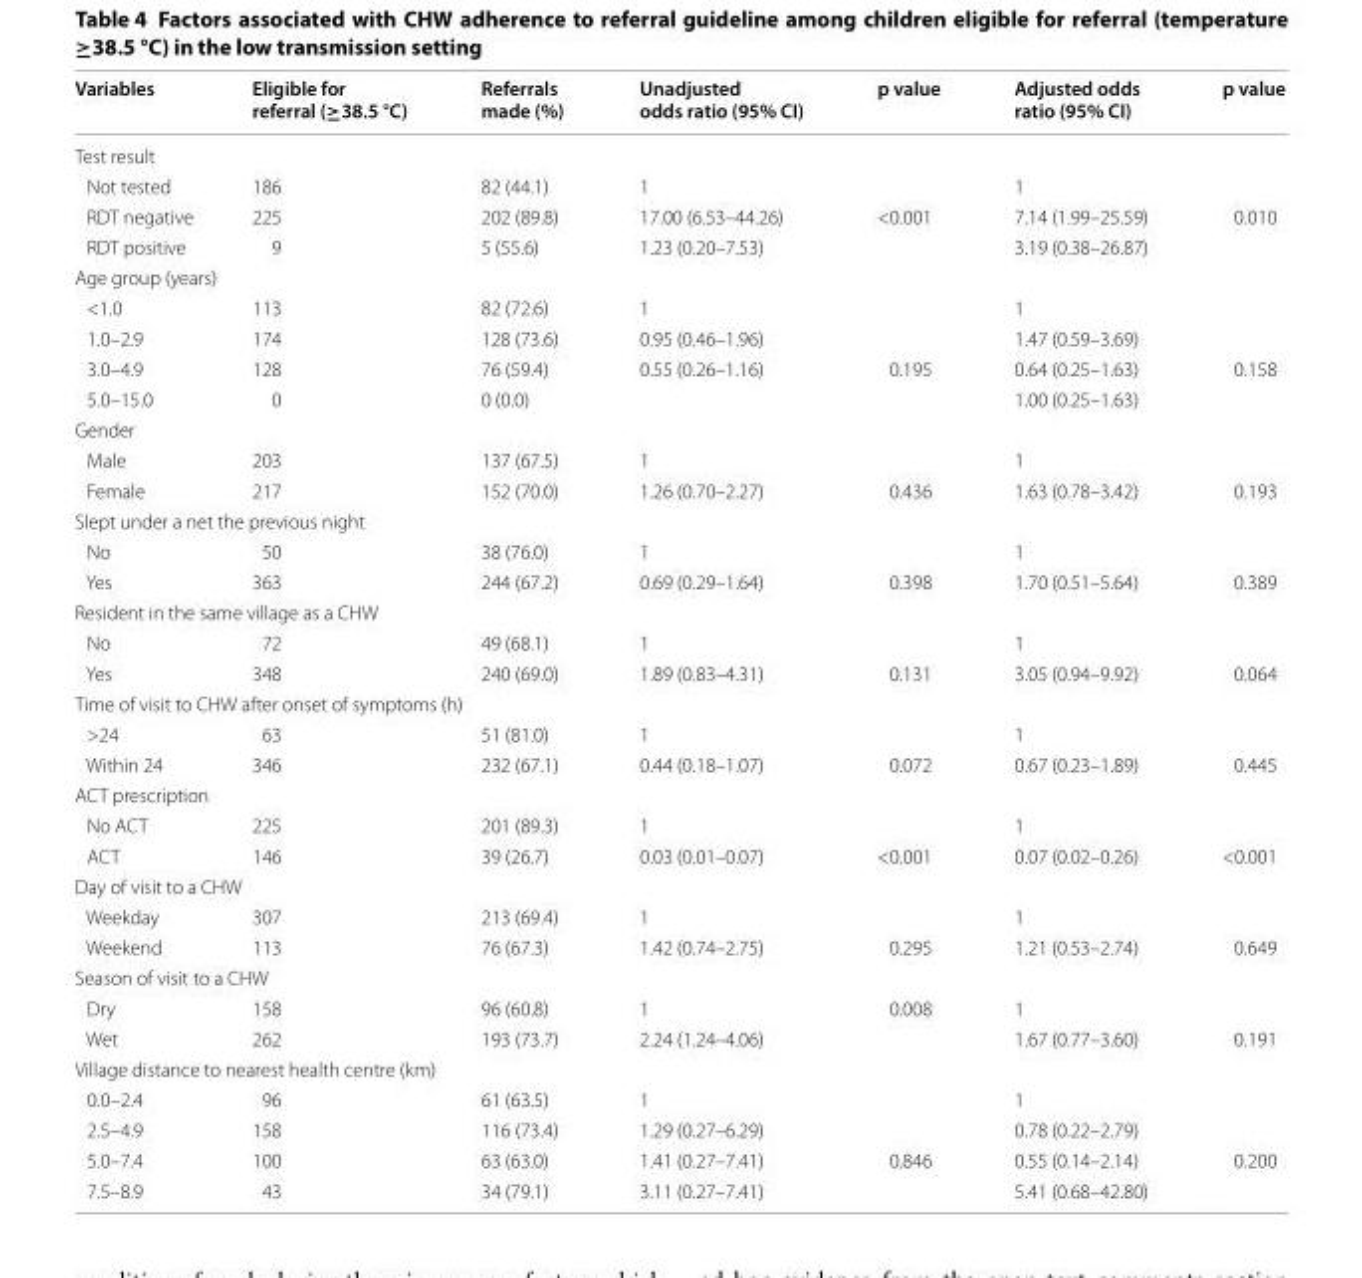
<table><thead><tr><td>Variables</td><td>Eligible for referral (≥38.5 °C)</td><td>Referrals made (%)</td><td>Unadjusted odds ratio (95% CI)</td><td>p value</td><td>Adjusted odds ratio (95% CI)</td><td>p value</td></tr></thead><tbody><tr><td colspan="7">Test result</td></tr><tr><td>Not tested</td><td>186</td><td>82 (44.1)</td><td>1</td><td></td><td>1</td><td></td></tr><tr><td>RDT negative</td><td>225</td><td>202 (89.8)</td><td>17.00 (6.53–44.26)</td><td>&lt;0.001</td><td>7.14 (1.99–25.59)</td><td>0.010</td></tr><tr><td>RDT positive</td><td>9</td><td>5 (55.6)</td><td>1.23 (0.20–7.53)</td><td></td><td>3.19 (0.38–26.87)</td><td></td></tr><tr><td colspan="7">Age group (years)</td></tr><tr><td>&lt;1.0</td><td>113</td><td>82 (72.6)</td><td>1</td><td></td><td>1</td><td></td></tr><tr><td>1.0–2.9</td><td>174</td><td>128 (73.6)</td><td>0.95 (0.46–1.96)</td><td></td><td>1.47 (0.59–3.69)</td><td></td></tr><tr><td>3.0–4.9</td><td>128</td><td>76 (59.4)</td><td>0.55 (0.26–1.16)</td><td>0.195</td><td>0.64 (0.25–1.63)</td><td>0.158</td></tr><tr><td>5.0–15.0</td><td>0</td><td>0 (0.0)</td><td></td><td></td><td>1.00 (0.25–1.63)</td><td></td></tr><tr><td colspan="7">Gender</td></tr><tr><td>Male</td><td>203</td><td>137 (67.5)</td><td>1</td><td></td><td>1</td><td></td></tr><tr><td>Female</td><td>217</td><td>152 (70.0)</td><td>1.26 (0.70–2.27)</td><td>0.436</td><td>1.63 (0.78–3.42)</td><td>0.193</td></tr><tr><td colspan="7">Slept under a net the previous night</td></tr><tr><td>No</td><td>50</td><td>38 (76.0)</td><td>1</td><td></td><td>1</td><td></td></tr><tr><td>Yes</td><td>363</td><td>244 (67.2)</td><td>0.69 (0.29–1.64)</td><td>0.398</td><td>1.70 (0.51–5.64)</td><td>0.389</td></tr><tr><td colspan="7">Resident in the same village as a CHW</td></tr><tr><td>No</td><td>72</td><td>49 (68.1)</td><td>1</td><td></td><td>1</td><td></td></tr><tr><td>Yes</td><td>348</td><td>240 (69.0)</td><td>1.89 (0.83–4.31)</td><td>0.131</td><td>3.05 (0.94–9.92)</td><td>0.064</td></tr><tr><td colspan="7">Time of visit to CHW after onset of symptoms (h)</td></tr><tr><td>&gt;24</td><td>63</td><td>51 (81.0)</td><td>1</td><td></td><td>1</td><td></td></tr><tr><td>Within 24</td><td>346</td><td>232 (67.1)</td><td>0.44 (0.18–1.07)</td><td>0.072</td><td>0.67 (0.23–1.89)</td><td>0.445</td></tr><tr><td colspan="7">ACT prescription</td></tr><tr><td>No ACT</td><td>225</td><td>201 (89.3)</td><td>1</td><td></td><td>1</td><td></td></tr><tr><td>ACT</td><td>146</td><td>39 (26.7)</td><td>0.03 (0.01–0.07)</td><td>&lt;0.001</td><td>0.07 (0.02–0.26)</td><td>&lt;0.001</td></tr><tr><td colspan="7">Day of visit to a CHW</td></tr><tr><td>Weekday</td><td>307</td><td>213 (69.4)</td><td>1</td><td></td><td>1</td><td></td></tr><tr><td>Weekend</td><td>113</td><td>76 (67.3)</td><td>1.42 (0.74–2.75)</td><td>0.295</td><td>1.21 (0.53–2.74)</td><td>0.649</td></tr><tr><td colspan="7">Season of visit to a CHW</td></tr><tr><td>Dry</td><td>158</td><td>96 (60.8)</td><td>1</td><td>0.008</td><td>1</td><td></td></tr><tr><td>Wet</td><td>262</td><td>193 (73.7)</td><td>2.24 (1.24–4.06)</td><td></td><td>1.67 (0.77–3.60)</td><td>0.191</td></tr><tr><td colspan="7">Village distance to nearest health centre (km)</td></tr><tr><td>0.0–2.4</td><td>96</td><td>61 (63.5)</td><td>1</td><td></td><td>1</td><td></td></tr><tr><td>2.5–4.9</td><td>158</td><td>116 (73.4)</td><td>1.29 (0.27–6.29)</td><td></td><td>0.78 (0.22–2.79)</td><td></td></tr><tr><td>5.0–7.4</td><td>100</td><td>63 (63.0)</td><td>1.41 (0.27–7.41)</td><td>0.846</td><td>0.55 (0.14–2.14)</td><td>0.200</td></tr><tr><td>7.5–8.9</td><td>43</td><td>34 (79.1)</td><td>3.11 (0.27–7.41)</td><td></td><td>5.41 (0.68–42.80)</td><td></td></tr></tbody></table>